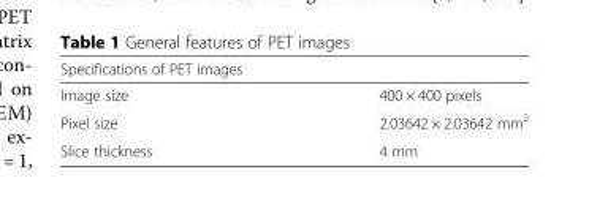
<table><thead><tr><td colspan="2">Specifications of PET images</td></tr><tr><td>Image size</td><td>400 × 400 pixels</td></tr></thead><tbody><tr><td>Pixel size</td><td>2.03642 × 2.03642 mm<sup>2</sup></td></tr><tr><td>Slice thickness</td><td>4 mm</td></tr></tbody></table>